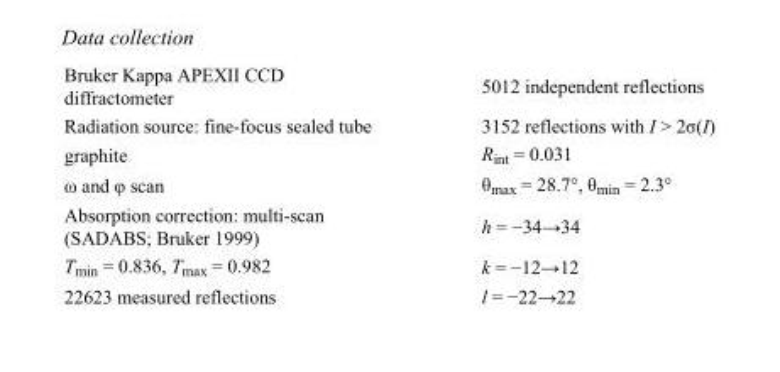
<table><tbody><tr><td>Bruker Kappa APEXII CCD diffractometer</td><td>5012 independent reflections</td></tr><tr><td>Radiation source: fine-focus sealed tube</td><td>3152 reflections with I &gt; 2σ(I)</td></tr><tr><td>graphite</td><td>R<sub>int</sub> = 0.031</td></tr><tr><td>ω and φ scan</td><td>θ<sub>max</sub> = 28.7°, θ<sub>min</sub> = 2.3°</td></tr><tr><td>Absorption correction: multi-scan (SADABS; Bruker 1999)</td><td>h = −34→34</td></tr><tr><td>T<sub>min</sub> = 0.836, T<sub>max</sub> = 0.982</td><td>k = −12→12</td></tr><tr><td>22623 measured reflections</td><td>l = −22→22</td></tr></tbody></table>